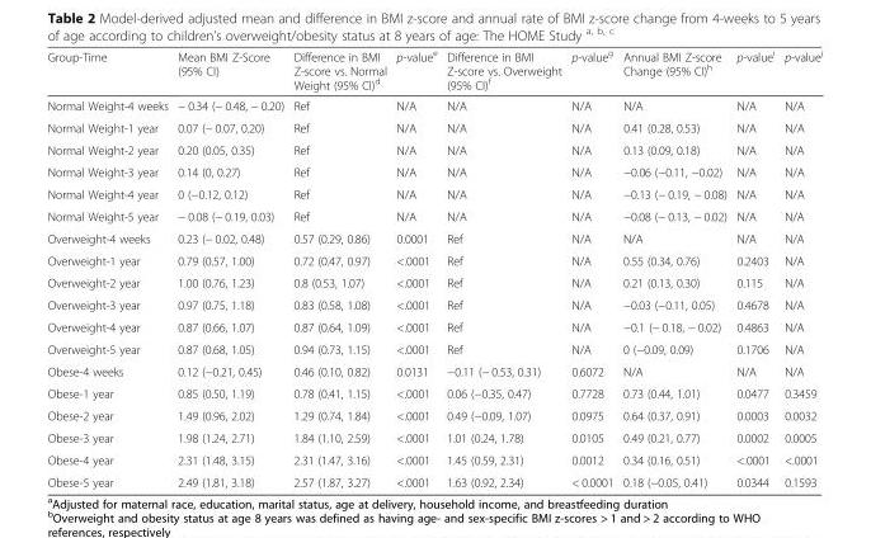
<table><thead><tr><td>Group-Time</td><td>Mean BMI Z-Score (95% CI)</td><td>Difference in BMI Z-score vs. Normal Weight (95% CI)<sup>d</sup></td><td>p-value<sup>e</sup></td><td>Difference in BMI Z-score vs. Overweight (95% CI)<sup>f</sup></td><td>p-value<sup>g</sup></td><td>Annual BMI Z-score Change (95% CI)<sup>h</sup></td><td>p-value<sup>i</sup></td><td>p-value<sup>j</sup></td></tr></thead><tbody><tr><td>Normal Weight-4 weeks</td><td>− 0.34 (− 0.48, − 0.20)</td><td>Ref</td><td>N/A</td><td>N/A</td><td>N/A</td><td>N/A</td><td>N/A</td><td>N/A</td></tr><tr><td>Normal Weight-1 year</td><td>0.07 (− 0.07, 0.20)</td><td>Ref</td><td>N/A</td><td>N/A</td><td>N/A</td><td>0.41 (0.28, 0.53)</td><td>N/A</td><td>N/A</td></tr><tr><td>Normal Weight-2 year</td><td>0.20 (0.05, 0.35)</td><td>Ref</td><td>N/A</td><td>N/A</td><td>N/A</td><td>0.13 (0.09, 0.18)</td><td>N/A</td><td>N/A</td></tr><tr><td>Normal Weight-3 year</td><td>0.14 (0, 0.27)</td><td>Ref</td><td>N/A</td><td>N/A</td><td>N/A</td><td>−0.06 (−0.11, −0.02)</td><td>N/A</td><td>N/A</td></tr><tr><td>Normal Weight-4 year</td><td>0 (−0.12, 0.12)</td><td>Ref</td><td>N/A</td><td>N/A</td><td>N/A</td><td>−0.13 (− 0.19, − 0.08)</td><td>N/A</td><td>N/A</td></tr><tr><td>Normal Weight-5 year</td><td>− 0.08 (− 0.19, 0.03)</td><td>Ref</td><td>N/A</td><td>N/A</td><td>N/A</td><td>−0.08 (− 0.13, − 0.02)</td><td>N/A</td><td>N/A</td></tr><tr><td>Overweight-4 weeks</td><td>0.23 (− 0.02, 0.48)</td><td>0.57 (0.29, 0.86)</td><td>0.0001</td><td>Ref</td><td>N/A</td><td>N/A</td><td>N/A</td><td>N/A</td></tr><tr><td>Overweight-1 year</td><td>0.79 (0.57, 1.00)</td><td>0.72 (0.47, 0.97)</td><td>&lt;.0001</td><td>Ref</td><td>N/A</td><td>0.55 (0.34, 0.76)</td><td>0.2403</td><td>N/A</td></tr><tr><td>Overweight-2 year</td><td>1.00 (0.76, 1.23)</td><td>0.8 (0.53, 1.07)</td><td>&lt;.0001</td><td>Ref</td><td>N/A</td><td>0.21 (0.13, 0.30)</td><td>0.115</td><td>N/A</td></tr><tr><td>Overweight-3 year</td><td>0.97 (0.75, 1.18)</td><td>0.83 (0.58, 1.08)</td><td>&lt;.0001</td><td>Ref</td><td>N/A</td><td>−0.03 (−0.11, 0.05)</td><td>0.4678</td><td>N/A</td></tr><tr><td>Overweight-4 year</td><td>0.87 (0.66, 1.07)</td><td>0.87 (0.64, 1.09)</td><td>&lt;.0001</td><td>Ref</td><td>N/A</td><td>−0.1 (− 0.18, − 0.02)</td><td>0.4863</td><td>N/A</td></tr><tr><td>Overweight-5 year</td><td>0.87 (0.68, 1.05)</td><td>0.94 (0.73, 1.15)</td><td>&lt;.0001</td><td>Ref</td><td>N/A</td><td>0 (−0.09, 0.09)</td><td>0.1706</td><td>N/A</td></tr><tr><td>Obese-4 weeks</td><td>0.12 (−0.21, 0.45)</td><td>0.46 (0.10, 0.82)</td><td>0.0131</td><td>−0.11 (− 0.53, 0.31)</td><td>0.6072</td><td>N/A</td><td>N/A</td><td>N/A</td></tr><tr><td>Obese-1 year</td><td>0.85 (0.50, 1.19)</td><td>0.78 (0.41, 1.15)</td><td>&lt;.0001</td><td>0.06 (−0.35, 0.47)</td><td>0.7728</td><td>0.73 (0.44, 1.01)</td><td>0.0477</td><td>0.3459</td></tr><tr><td>Obese-2 year</td><td>1.49 (0.96, 2.02)</td><td>1.29 (0.74, 1.84)</td><td>&lt;.0001</td><td>0.49 (−0.09, 1.07)</td><td>0.0975</td><td>0.64 (0.37, 0.91)</td><td>0.0003</td><td>0.0032</td></tr><tr><td>Obese-3 year</td><td>1.98 (1.24, 2.71)</td><td>1.84 (1.10, 2.59)</td><td>&lt;.0001</td><td>1.01 (0.24, 1.78)</td><td>0.0105</td><td>0.49 (0.21, 0.77)</td><td>0.0002</td><td>0.0005</td></tr><tr><td>Obese-4 year</td><td>2.31 (1.48, 3.15)</td><td>2.31 (1.47, 3.16)</td><td>&lt;.0001</td><td>1.45 (0.59, 2.31)</td><td>0.0012</td><td>0.34 (0.16, 0.51)</td><td>&lt;.0001</td><td>&lt;.0001</td></tr><tr><td>Obese-5 year</td><td>2.49 (1.81, 3.18)</td><td>2.57 (1.87, 3.27)</td><td>&lt;.0001</td><td>1.63 (0.92, 2.34)</td><td>&lt; 0.0001</td><td>0.18 (−0.05, 0.41)</td><td>0.0344</td><td>0.1593</td></tr></tbody></table>